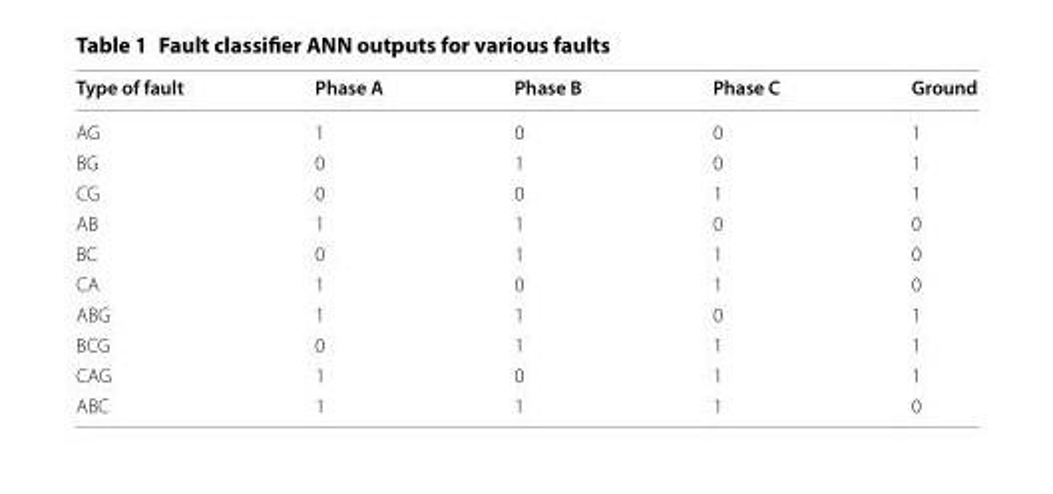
<table><thead><tr><td>Type of fault</td><td>Phase A</td><td>Phase B</td><td>Phase C</td><td>Ground</td></tr></thead><tbody><tr><td>AG</td><td>1</td><td>0</td><td>0</td><td>1</td></tr><tr><td>BG</td><td>0</td><td>1</td><td>0</td><td>1</td></tr><tr><td>CG</td><td>0</td><td>0</td><td>1</td><td>1</td></tr><tr><td>AB</td><td>1</td><td>1</td><td>0</td><td>0</td></tr><tr><td>BC</td><td>0</td><td>1</td><td>1</td><td>0</td></tr><tr><td>CA</td><td>1</td><td>0</td><td>1</td><td>0</td></tr><tr><td>ABG</td><td>1</td><td>1</td><td>0</td><td>1</td></tr><tr><td>BCG</td><td>0</td><td>1</td><td>1</td><td>1</td></tr><tr><td>CAG</td><td>1</td><td>0</td><td>1</td><td>1</td></tr><tr><td>ABC</td><td>1</td><td>1</td><td>1</td><td>0</td></tr></tbody></table>